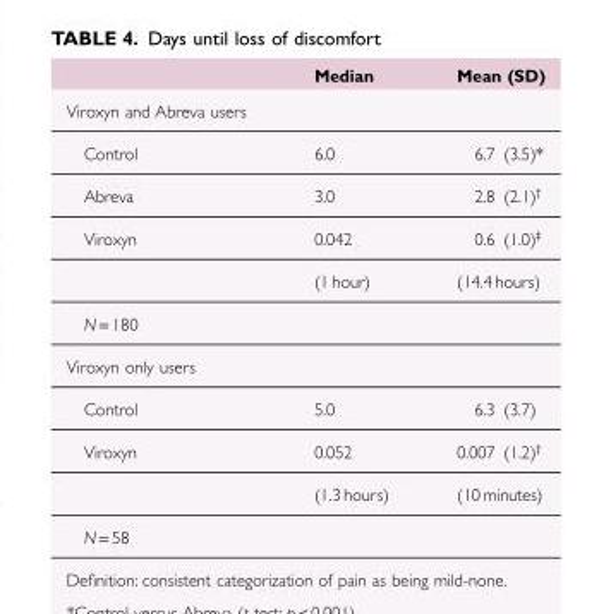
<table><thead><tr><td></td><td>Median</td><td>Mean (SD)</td></tr></thead><tbody><tr><td colspan="3">Viroxyn and Abreva users</td></tr><tr><td>Control</td><td>6.0</td><td>6.7 (3.5)*</td></tr><tr><td>Abreva</td><td>3.0</td><td>2.8 (2.1)†</td></tr><tr><td rowspan="2">Viroxyn</td><td>0.042</td><td>0.6 (1.0)‡</td></tr><tr><td>(1 hour)</td><td>(14.4 hours)</td></tr><tr><td colspan="3">N = 180</td></tr><tr><td colspan="3">Viroxyn only users</td></tr><tr><td>Control</td><td>5.0</td><td>6.3 (3.7)</td></tr><tr><td rowspan="2">Viroxyn</td><td>0.052</td><td>0.007 (1.2)†</td></tr><tr><td>(1.3 hours)</td><td>(10 minutes)</td></tr><tr><td>N = 58</td><td></td><td></td></tr></tbody></table>